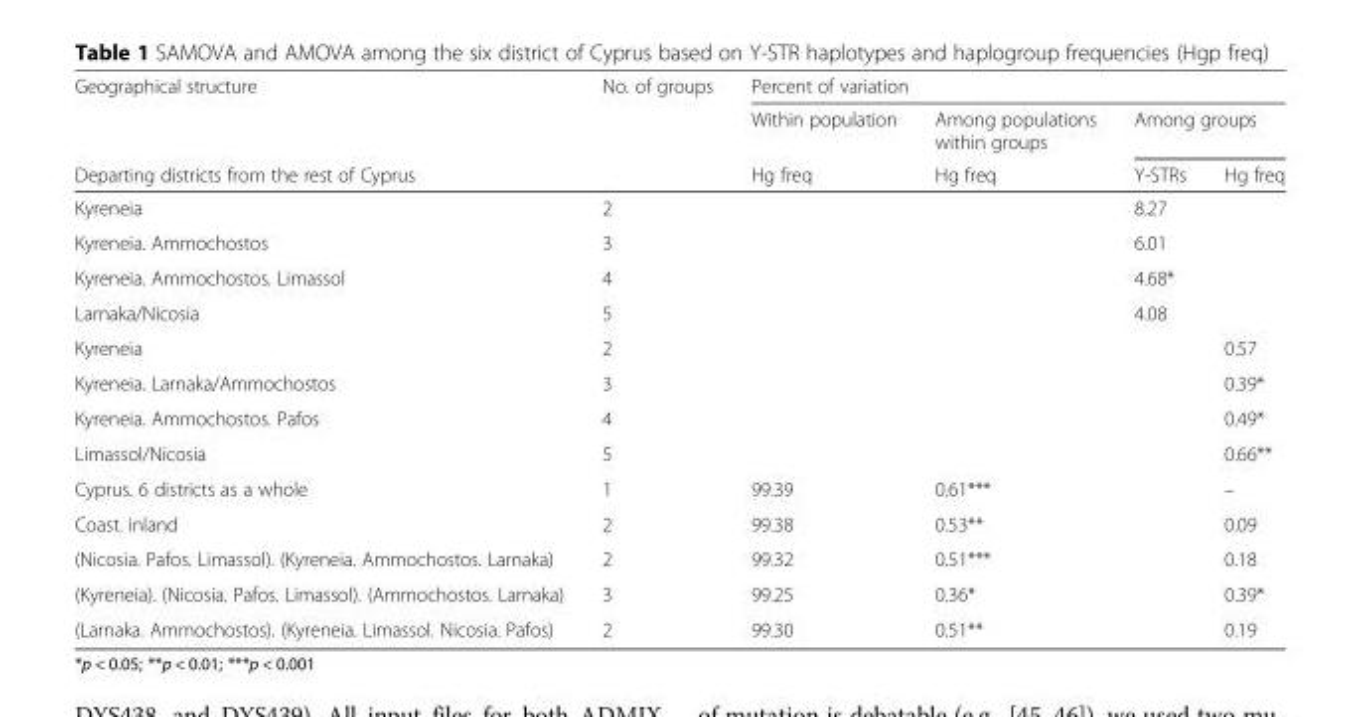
<table><thead><tr><td rowspan="3">Geographical structure Departing districts from the rest of Cyprus</td><td rowspan="3">No. of groups</td><td colspan="4">Percent of variation</td></tr><tr><td rowspan="2">Within population Hg freq</td><td rowspan="2">Among populations within groups Hg freq</td><td colspan="2">Among groups</td></tr><tr><td>Y-STRs</td><td>Hg freq</td></tr></thead><tbody><tr><td>Kyreneia</td><td>2</td><td></td><td></td><td>8.27</td><td></td></tr><tr><td>Kyreneia. Ammochostos</td><td>3</td><td></td><td></td><td>6.01</td><td></td></tr><tr><td>Kyreneia. Ammochostos. Limassol</td><td>4</td><td></td><td></td><td>4.68*</td><td></td></tr><tr><td>Larnaka/Nicosia</td><td>5</td><td></td><td></td><td>4.08</td><td></td></tr><tr><td>Kyreneia</td><td>2</td><td></td><td></td><td></td><td>0.57</td></tr><tr><td>Kyreneia. Larnaka/Ammochostos</td><td>3</td><td></td><td></td><td></td><td>0.39*</td></tr><tr><td>Kyreneia. Ammochostos. Pafos</td><td>4</td><td></td><td></td><td></td><td>0.49*</td></tr><tr><td>Limassol/Nicosia</td><td>5</td><td></td><td></td><td></td><td>0.66**</td></tr><tr><td>Cyprus. 6 districts as a whole</td><td>1</td><td>99.39</td><td>0.61***</td><td></td><td>–</td></tr><tr><td>Coast. inland</td><td>2</td><td>99.38</td><td>0.53**</td><td></td><td>0.09</td></tr><tr><td>(Nicosia. Pafos. Limassol). (Kyreneia. Ammochostos. Larnaka)</td><td>2</td><td>99.32</td><td>0.51***</td><td></td><td>0.18</td></tr><tr><td>(Kyreneia). (Nicosia. Pafos. Limassol). (Ammochostos. Larnaka)</td><td>3</td><td>99.25</td><td>0.36*</td><td></td><td>0.39*</td></tr><tr><td>(Larnaka. Ammochostos). (Kyreneia. Limassol. Nicosia. Pafos)</td><td>2</td><td>99.30</td><td>0.51**</td><td></td><td>0.19</td></tr></tbody></table>